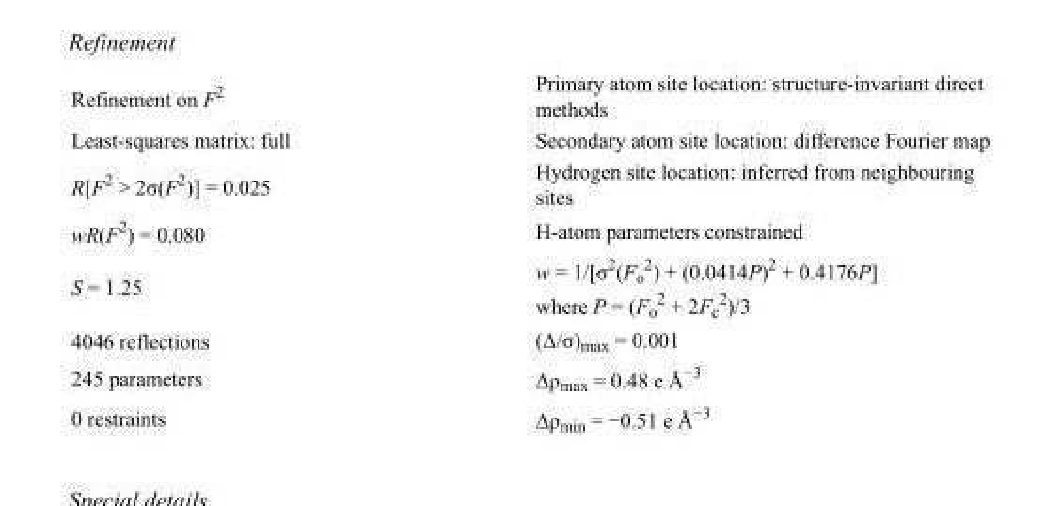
<table><tbody><tr><td>Refinement on F<sup>2</sup></td><td>Primary atom site location: structure-invariant direct methods</td></tr><tr><td>Least-squares matrix: full</td><td>Secondary atom site location: difference Fourier map</td></tr><tr><td>R[F<sup>2</sup> &gt; 2σ(F<sup>2</sup>)] = 0.025</td><td>Hydrogen site location: inferred from neighbouring sites</td></tr><tr><td>wR(F<sup>2</sup>) = 0.080</td><td>H-atom parameters constrained</td></tr><tr><td>S = 1.25</td><td>w = 1/[σ<sup>2</sup>(F<sub>o</sub> <sup>2</sup>) + (0.0414P)<sup>2</sup> + 0.4176P] where P = (F<sub>o</sub> <sup>2</sup> + 2F<sub>c</sub> <sup>2</sup>)/3</td></tr><tr><td>4046 reflections</td><td>(Δ/σ)<sub>max</sub> = 0.001</td></tr><tr><td>245 parameters</td><td>Δρ<sub>max</sub> = 0.48 e Å<sup>−3</sup></td></tr><tr><td>0 restraints</td><td>Δρ<sub>min</sub> = −0.51 e Å<sup>−3</sup></td></tr></tbody></table>